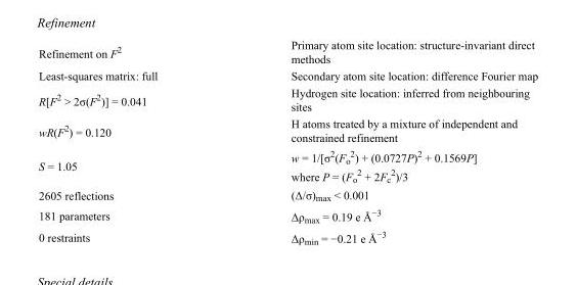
<table><tbody><tr><td>Refinement on F<sup>2</sup></td><td>Primary atom site location: structure-invariant direct methods</td></tr><tr><td>Least-squares matrix: full</td><td>Secondary atom site location: difference Fourier map</td></tr><tr><td>R[F<sup>2</sup> &gt; 2σ(F<sup>2</sup>)] = 0.041</td><td>Hydrogen site location: inferred from neighbouring sites</td></tr><tr><td>wR(F<sup>2</sup>) = 0.120</td><td>H atoms treated by a mixture of independent and constrained refinement</td></tr><tr><td>S = 1.05</td><td>w = 1/[σ<sup>2</sup>(F<sub>o</sub> <sup>2</sup>) + (0.0727P)<sup>2</sup> + 0.1569P] where P = (F<sub>o</sub> <sup>2</sup> + 2F<sub>c</sub> <sup>2</sup>)/3</td></tr><tr><td>2605 reflections</td><td>(Δ/σ)<sub>max</sub> &lt; 0.001</td></tr><tr><td>181 parameters</td><td>Δρ<sub>max</sub> = 0.19 e Å<sup>−3</sup></td></tr><tr><td>0 restraints</td><td>Δρ<sub>min</sub> = −0.21 e Å<sup>−3</sup></td></tr></tbody></table>